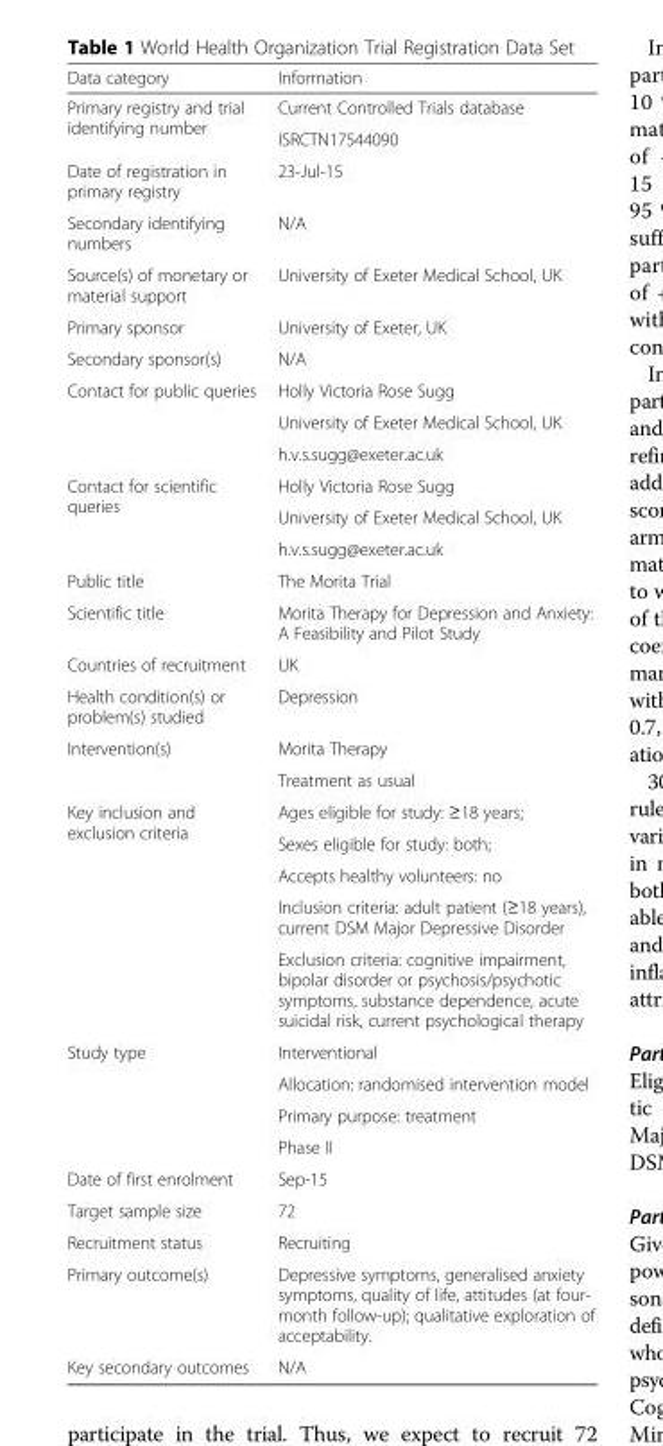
<table><thead><tr><td>Data category</td><td>Information</td></tr></thead><tbody><tr><td rowspan="2">Primary registry and trial identifying number</td><td>Current Controlled Trials database</td></tr><tr><td>ISRCTN17544090</td></tr><tr><td>Date of registration in primary registry</td><td>23-Jul-15</td></tr><tr><td>Secondary identifying numbers</td><td>N/A</td></tr><tr><td>Source(s) of monetary or material support</td><td>University of Exeter Medical School, UK</td></tr><tr><td>Primary sponsor</td><td>University of Exeter, UK</td></tr><tr><td>Secondary sponsor(s)</td><td>N/A</td></tr><tr><td rowspan="3">Contact for public queries</td><td>Holly Victoria Rose Sugg</td></tr><tr><td>University of Exeter Medical School, UK</td></tr><tr><td>h.v.s.sugg@exeter.ac.uk</td></tr><tr><td rowspan="3">Contact for scientific queries</td><td>Holly Victoria Rose Sugg</td></tr><tr><td>University of Exeter Medical School, UK</td></tr><tr><td>h.v.s.sugg@exeter.ac.uk</td></tr><tr><td>Public title</td><td>The Morita Trial</td></tr><tr><td>Scientific title</td><td>Morita Therapy for Depression and Anxiety: A Feasibility and Pilot Study</td></tr><tr><td>Countries of recruitment</td><td>UK</td></tr><tr><td>Health condition(s) or problem(s) studied</td><td>Depression</td></tr><tr><td rowspan="2">Intervention(s)</td><td>Morita Therapy</td></tr><tr><td>Treatment as usual</td></tr><tr><td rowspan="5">Key inclusion and exclusion criteria</td><td>Ages eligible for study: ≥18 years;</td></tr><tr><td>Sexes eligible for study: both;</td></tr><tr><td>Accepts healthy volunteers: no</td></tr><tr><td>Inclusion criteria: adult patient (≥18 years), current DSM Major Depressive Disorder</td></tr><tr><td>Exclusion criteria: cognitive impairment, bipolar disorder or psychosis/psychotic symptoms, substance dependence, acute suicidal risk, current psychological therapy</td></tr><tr><td rowspan="4">Study type</td><td>Interventional</td></tr><tr><td>Allocation: randomised intervention model</td></tr><tr><td>Primary purpose: treatment</td></tr><tr><td>Phase II</td></tr><tr><td>Date of first enrolment</td><td>Sep-15</td></tr><tr><td>Target sample size</td><td>72</td></tr><tr><td>Recruitment status</td><td>Recruiting</td></tr><tr><td>Primary outcome(s)</td><td>Depressive symptoms, generalised anxiety symptoms, quality of life, attitudes (at four- month follow-up); qualitative exploration of acceptability.</td></tr><tr><td>Key secondary outcomes</td><td>N/A</td></tr></tbody></table>